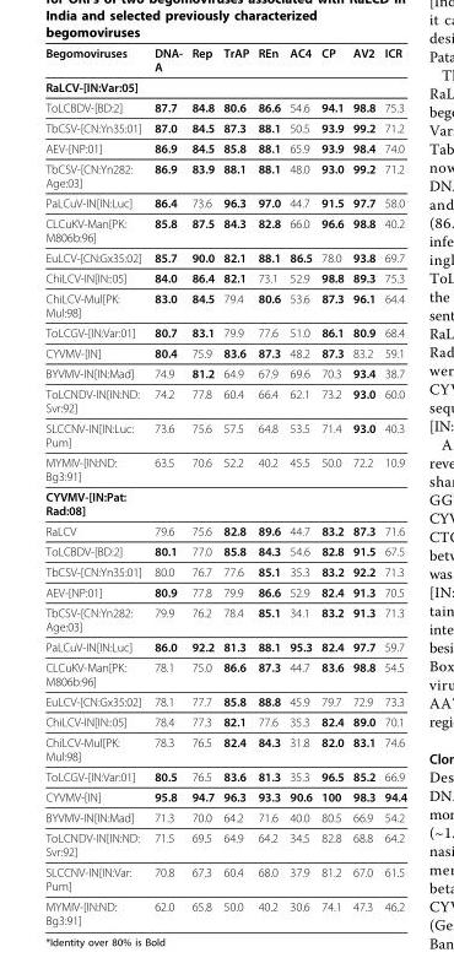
<table><thead><tr><td>Begomoviruses</td><td>DNA- A</td><td>Rep</td><td>TrAP</td><td>REn</td><td>AC4</td><td>CP</td><td>AV2</td><td>ICR</td></tr></thead><tbody><tr><td colspan="9">RaLCV-[IN:Var:05]</td></tr><tr><td>ToLCBDV-[BD:2]</td><td>87.7</td><td>84.8</td><td>80.6</td><td>86.6</td><td>54.6</td><td>94.1</td><td>98.8</td><td>75.3</td></tr><tr><td>TbCSV-[CN:Yn35:01]</td><td>87.0</td><td>84.5</td><td>87.3</td><td>88.1</td><td>50.5</td><td>93.9</td><td>99.2</td><td>71.2</td></tr><tr><td>AEV-[NP:01]</td><td>86.9</td><td>84.5</td><td>85.8</td><td>88.1</td><td>65.9</td><td>93.9</td><td>98.4</td><td>74.0</td></tr><tr><td>TbCSV-[CN:Yn282: Age:03]</td><td>86.9</td><td>83.9</td><td>88.1</td><td>88.1</td><td>48.0</td><td>93.0</td><td>99.2</td><td>71.2</td></tr><tr><td>PaLCuV-IN[IN:Luc]</td><td>86.4</td><td>73.6</td><td>96.3</td><td>97.0</td><td>44.7</td><td>91.5</td><td>97.7</td><td>58.0</td></tr><tr><td>CLCuKV-Man[PK: M806b:96]</td><td>85.8</td><td>87.5</td><td>84.3</td><td>82.8</td><td>66.0</td><td>96.6</td><td>98.8</td><td>40.2</td></tr><tr><td>EuLCV-[CN:Gx35:02]</td><td>85.7</td><td>90.0</td><td>82.1</td><td>88.1</td><td>86.5</td><td>78.0</td><td>93.8</td><td>69.7</td></tr><tr><td>ChiLCV-IN[IN::05]</td><td>84.0</td><td>86.4</td><td>82.1</td><td>73.1</td><td>52.9</td><td>98.8</td><td>89.3</td><td>75.3</td></tr><tr><td>ChiLCV-Mul[PK: Mul:98]</td><td>83.0</td><td>84.5</td><td>79.4</td><td>80.6</td><td>53.6</td><td>87.3</td><td>96.1</td><td>64.4</td></tr><tr><td>ToLCGV-[IN:Var:01]</td><td>80.7</td><td>83.1</td><td>79.9</td><td>77.6</td><td>51.0</td><td>86.1</td><td>80.9</td><td>68.4</td></tr><tr><td>CYVMV-[IN]</td><td>80.4</td><td>75.9</td><td>83.6</td><td>87.3</td><td>48.2</td><td>87.3</td><td>83.2</td><td>59.1</td></tr><tr><td>BYVMV-IN[IN:Mad]</td><td>74.9</td><td>81.2</td><td>64.9</td><td>67.9</td><td>69.6</td><td>70.3</td><td>93.4</td><td>38.7</td></tr><tr><td>ToLCNDV-IN[IN:ND: Svr:92]</td><td>74.2</td><td>77.8</td><td>60.4</td><td>66.4</td><td>62.1</td><td>73.2</td><td>93.0</td><td>60.0</td></tr><tr><td>SLCCNV-IN[IN:Luc: Pum]</td><td>73.6</td><td>75.6</td><td>57.5</td><td>64.8</td><td>53.5</td><td>71.4</td><td>93.0</td><td>40.3</td></tr><tr><td>MYMIV-[IN:ND: Bg3:91]</td><td>63.5</td><td>70.6</td><td>52.2</td><td>40.2</td><td>45.5</td><td>50.0</td><td>72.2</td><td>10.9</td></tr><tr><td colspan="9">CYVMV-[IN:Pat: Rad:08]</td></tr><tr><td>RaLCV</td><td>79.6</td><td>75.6</td><td>82.8</td><td>89.6</td><td>44.7</td><td>83.2</td><td>87.3</td><td>71.6</td></tr><tr><td>ToLCBDV-[BD:2]</td><td>80.1</td><td>77.0</td><td>85.8</td><td>84.3</td><td>54.6</td><td>82.8</td><td>91.5</td><td>67.5</td></tr><tr><td>TbCSV-[CN:Yn35:01]</td><td>80.0</td><td>76.7</td><td>77.6</td><td>85.1</td><td>35.3</td><td>83.2</td><td>92.2</td><td>71.3</td></tr><tr><td>AEV-[NP:01]</td><td>80.9</td><td>77.8</td><td>79.9</td><td>86.6</td><td>52.9</td><td>82.4</td><td>91.3</td><td>70.5</td></tr><tr><td>TbCSV-[CN:Yn282: Age:03]</td><td>79.9</td><td>76.2</td><td>78.4</td><td>85.1</td><td>34.1</td><td>83.2</td><td>91.3</td><td>71.3</td></tr><tr><td>PaLCuV-IN[IN:Luc]</td><td>86.0</td><td>92.2</td><td>81.3</td><td>88.1</td><td>95.3</td><td>82.4</td><td>97.7</td><td>59.7</td></tr><tr><td>CLCuKV-Man[PK: M806b:96]</td><td>78.1</td><td>75.0</td><td>86.6</td><td>87.3</td><td>44.7</td><td>83.6</td><td>98.8</td><td>54.5</td></tr><tr><td>EuLCV-[CN:Gx35:02]</td><td>78.1</td><td>77.7</td><td>85.8</td><td>88.8</td><td>45.9</td><td>79.7</td><td>72.9</td><td>73.3</td></tr><tr><td>ChiLCV-IN[IN::05]</td><td>78.4</td><td>77.3</td><td>82.1</td><td>77.6</td><td>35.3</td><td>82.4</td><td>89.0</td><td>70.1</td></tr><tr><td>ChiLCV-Mul[PK: Mul:98]</td><td>78.3</td><td>76.5</td><td>82.4</td><td>84.3</td><td>31.8</td><td>82.0</td><td>83.1</td><td>74.6</td></tr><tr><td>ToLCGV-[IN:Var:01]</td><td>80.5</td><td>76.5</td><td>83.6</td><td>81.3</td><td>35.3</td><td>96.5</td><td>85.2</td><td>66.9</td></tr><tr><td>CYVMV-[IN]</td><td>95.8</td><td>94.7</td><td>96.3</td><td>93.3</td><td>90.6</td><td>100</td><td>98.3</td><td>94.4</td></tr><tr><td>BYVMV-IN[IN:Mad]</td><td>71.3</td><td>70.0</td><td>64.2</td><td>71.6</td><td>40.0</td><td>80.5</td><td>66.9</td><td>54.2</td></tr><tr><td>ToLCNDV-IN[IN:ND: Svr:92]</td><td>71.5</td><td>69.5</td><td>64.9</td><td>64.2</td><td>34.5</td><td>82.8</td><td>68.8</td><td>64.2</td></tr><tr><td>SLCCNV-IN[IN:Var: Pum]</td><td>70.8</td><td>67.3</td><td>60.4</td><td>68.0</td><td>37.9</td><td>81.2</td><td>67.0</td><td>61.5</td></tr><tr><td>MYMIV-[IN:ND: Bg3:91]</td><td>62.0</td><td>65.8</td><td>50.0</td><td>40.2</td><td>30.6</td><td>74.1</td><td>47.3</td><td>46.2</td></tr></tbody></table>